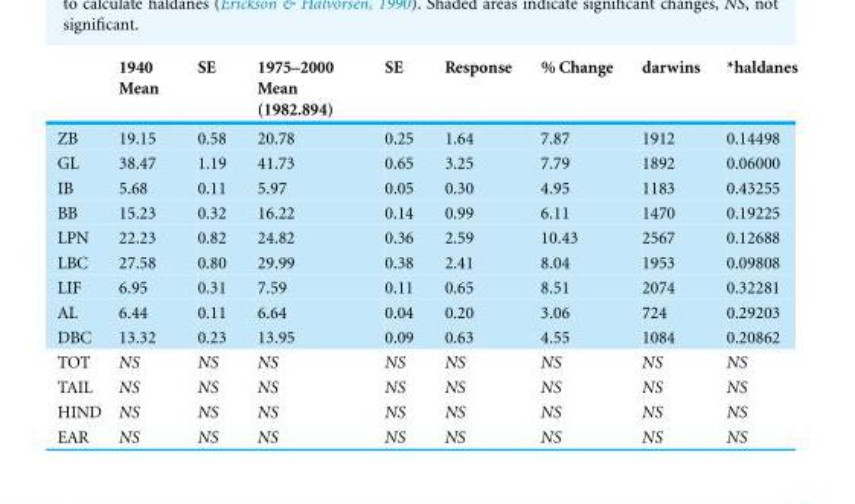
<table><thead><tr><td></td><td>1940 Mean</td><td>SE</td><td>1975–2000 Mean (1982.894)</td><td>SE</td><td>Response</td><td>% Change</td><td>darwins</td><td>*haldanes</td></tr></thead><tbody><tr><td>ZB</td><td>19.15</td><td>0.58</td><td>20.78</td><td>0.25</td><td>1.64</td><td>7.87</td><td>1912</td><td>0.14498</td></tr><tr><td>GL</td><td>38.47</td><td>1.19</td><td>41.73</td><td>0.65</td><td>3.25</td><td>7.79</td><td>1892</td><td>0.06000</td></tr><tr><td>IB</td><td>5.68</td><td>0.11</td><td>5.97</td><td>0.05</td><td>0.30</td><td>4.95</td><td>1183</td><td>0.43255</td></tr><tr><td>BB</td><td>15.23</td><td>0.32</td><td>16.22</td><td>0.14</td><td>0.99</td><td>6.11</td><td>1470</td><td>0.19225</td></tr><tr><td>LPN</td><td>22.23</td><td>0.82</td><td>24.82</td><td>0.36</td><td>2.59</td><td>10.43</td><td>2567</td><td>0.12688</td></tr><tr><td>LBC</td><td>27.58</td><td>0.80</td><td>29.99</td><td>0.38</td><td>2.41</td><td>8.04</td><td>1953</td><td>0.09808</td></tr><tr><td>LIF</td><td>6.95</td><td>0.31</td><td>7.59</td><td>0.11</td><td>0.65</td><td>8.51</td><td>2074</td><td>0.32281</td></tr><tr><td>AL</td><td>6.44</td><td>0.11</td><td>6.64</td><td>0.04</td><td>0.20</td><td>3.06</td><td>724</td><td>0.29203</td></tr><tr><td>DBC</td><td>13.32</td><td>0.23</td><td>13.95</td><td>0.09</td><td>0.63</td><td>4.55</td><td>1084</td><td>0.20862</td></tr><tr><td>TOT</td><td>NS</td><td>NS</td><td>NS</td><td>NS</td><td>NS</td><td>NS</td><td>NS</td><td>NS</td></tr><tr><td>TAIL</td><td>NS</td><td>NS</td><td>NS</td><td>NS</td><td>NS</td><td>NS</td><td>NS</td><td>NS</td></tr><tr><td>HIND</td><td>NS</td><td>NS</td><td>NS</td><td>NS</td><td>NS</td><td>NS</td><td>NS</td><td>NS</td></tr><tr><td>EAR</td><td>NS</td><td>NS</td><td>NS</td><td>NS</td><td>NS</td><td>NS</td><td>NS</td><td>NS</td></tr></tbody></table>